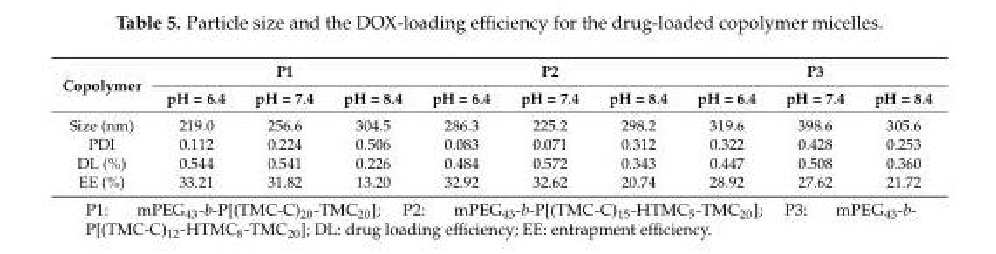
<table><thead><tr><td rowspan="2">Copolymer</td><td colspan="3">P1</td><td colspan="3">P2</td><td colspan="3">P3</td></tr><tr><td>pH = 6.4</td><td>pH = 7.4</td><td>pH = 8.4</td><td>pH = 6.4</td><td>pH = 7.4</td><td>pH = 8.4</td><td>pH = 6.4</td><td>pH = 7.4</td><td>pH = 8.4</td></tr></thead><tbody><tr><td>Size (nm)</td><td>219.0</td><td>256.6</td><td>304.5</td><td>286.3</td><td>225.2</td><td>298.2</td><td>319.6</td><td>398.6</td><td>305.6</td></tr><tr><td>PDI</td><td>0.112</td><td>0.224</td><td>0.506</td><td>0.083</td><td>0.071</td><td>0.312</td><td>0.322</td><td>0.428</td><td>0.253</td></tr><tr><td>DL (%)</td><td>0.544</td><td>0.541</td><td>0.226</td><td>0.484</td><td>0.572</td><td>0.343</td><td>0.447</td><td>0.508</td><td>0.360</td></tr><tr><td>EE (%)</td><td>33.21</td><td>31.82</td><td>13.20</td><td>32.92</td><td>32.62</td><td>20.74</td><td>28.92</td><td>27.62</td><td>21.72</td></tr></tbody></table>